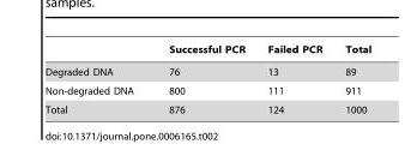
<table><thead><tr><td></td><td>Successful PCR</td><td>Failed PCR</td><td>Total</td></tr></thead><tbody><tr><td>Degraded DNA</td><td>76</td><td>13</td><td>89</td></tr><tr><td>Non-degraded DNA</td><td>800</td><td>111</td><td>911</td></tr><tr><td>Total</td><td>876</td><td>124</td><td>1000</td></tr></tbody></table>